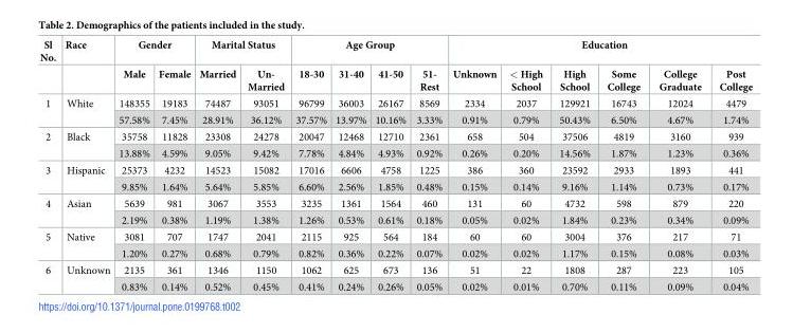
<table><thead><tr><td rowspan="2">Sl No.</td><td rowspan="2">Race</td><td colspan="2">Gender</td><td colspan="2">Marital Status</td><td colspan="4">Age Group</td><td colspan="6">Education</td></tr><tr><td>Male</td><td>Female</td><td>Married</td><td>Un- Married</td><td>18-30</td><td>31-40</td><td>41-50</td><td>51- Rest</td><td>Unknown</td><td>&lt; High School</td><td>High School</td><td>Some College</td><td>College Graduate</td><td>Post College</td></tr></thead><tbody><tr><td rowspan="2">1</td><td rowspan="2">White</td><td>148355</td><td>19183</td><td>74487</td><td>93051</td><td>96799</td><td>36003</td><td>26167</td><td>8569</td><td>2334</td><td>2037</td><td>129921</td><td>16743</td><td>12024</td><td>4479</td></tr><tr><td>57.58%</td><td>7.45%</td><td>28.91%</td><td>36.12%</td><td>37.57%</td><td>13.97%</td><td>10.16%</td><td>3.33%</td><td>0.91%</td><td>0.79%</td><td>50.43%</td><td>6.50%</td><td>4.67%</td><td>1.74%</td></tr><tr><td rowspan="2">2</td><td rowspan="2">Black</td><td>35758</td><td>11828</td><td>23308</td><td>24278</td><td>20047</td><td>12468</td><td>12710</td><td>2361</td><td>658</td><td>504</td><td>37506</td><td>4819</td><td>3160</td><td>939</td></tr><tr><td>13.88%</td><td>4.59%</td><td>9.05%</td><td>9.42%</td><td>7.78%</td><td>4.84%</td><td>4.93%</td><td>0.92%</td><td>0.26%</td><td>0.20%</td><td>14.56%</td><td>1.87%</td><td>1.23%</td><td>0.36%</td></tr><tr><td rowspan="2">3</td><td rowspan="2">Hispanic</td><td>25373</td><td>4232</td><td>14523</td><td>15082</td><td>17016</td><td>6606</td><td>4758</td><td>1225</td><td>386</td><td>360</td><td>23592</td><td>2933</td><td>1893</td><td>441</td></tr><tr><td>9.85%</td><td>1.64%</td><td>5.64%</td><td>5.85%</td><td>6.60%</td><td>2.56%</td><td>1.85%</td><td>0.48%</td><td>0.15%</td><td>0.14%</td><td>9.16%</td><td>1.14%</td><td>0.73%</td><td>0.17%</td></tr><tr><td rowspan="2">4</td><td rowspan="2">Asian</td><td>5639</td><td>981</td><td>3067</td><td>3553</td><td>3235</td><td>1361</td><td>1564</td><td>460</td><td>131</td><td>60</td><td>4732</td><td>598</td><td>879</td><td>220</td></tr><tr><td>2.19%</td><td>0.38%</td><td>1.19%</td><td>1.38%</td><td>1.26%</td><td>0.53%</td><td>0.61%</td><td>0.18%</td><td>0.05%</td><td>0.02%</td><td>1.84%</td><td>0.23%</td><td>0.34%</td><td>0.09%</td></tr><tr><td rowspan="2">5</td><td rowspan="2">Native</td><td>3081</td><td>707</td><td>1747</td><td>2041</td><td>2115</td><td>925</td><td>564</td><td>184</td><td>60</td><td>60</td><td>3004</td><td>376</td><td>217</td><td>71</td></tr><tr><td>1.20%</td><td>0.27%</td><td>0.68%</td><td>0.79%</td><td>0.82%</td><td>0.36%</td><td>0.22%</td><td>0.07%</td><td>0.02%</td><td>0.02%</td><td>1.17%</td><td>0.15%</td><td>0.08%</td><td>0.03%</td></tr><tr><td rowspan="2">6</td><td rowspan="2">Unknown</td><td>2135</td><td>361</td><td>1346</td><td>1150</td><td>1062</td><td>625</td><td>673</td><td>136</td><td>51</td><td>22</td><td>1808</td><td>287</td><td>223</td><td>105</td></tr><tr><td>0.83%</td><td>0.14%</td><td>0.52%</td><td>0.45%</td><td>0.41%</td><td>0.24%</td><td>0.26%</td><td>0.05%</td><td>0.02%</td><td>0.01%</td><td>0.70%</td><td>0.11%</td><td>0.09%</td><td>0.04%</td></tr></tbody></table>